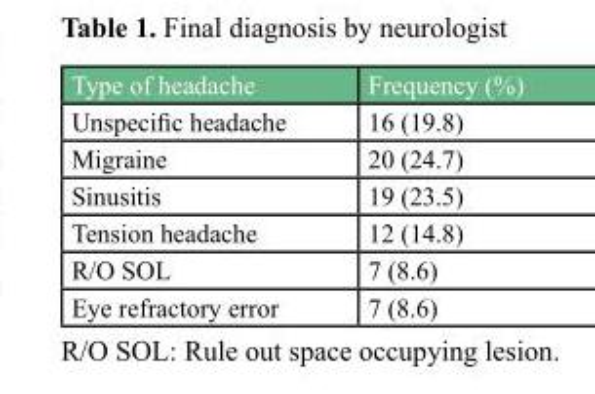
<table><tbody><tr><td>Type of headache</td><td>Frequency (%)</td></tr><tr><td>Unspecific headache</td><td>16 (19.8)</td></tr><tr><td>Migraine</td><td>20 (24.7)</td></tr><tr><td>Sinusitis</td><td>19 (23.5)</td></tr><tr><td>Tension headache</td><td>12 (14.8)</td></tr><tr><td>R/O SOL</td><td>7 (8.6)</td></tr><tr><td>Eye refractory error</td><td>7 (8.6)</td></tr></tbody></table>